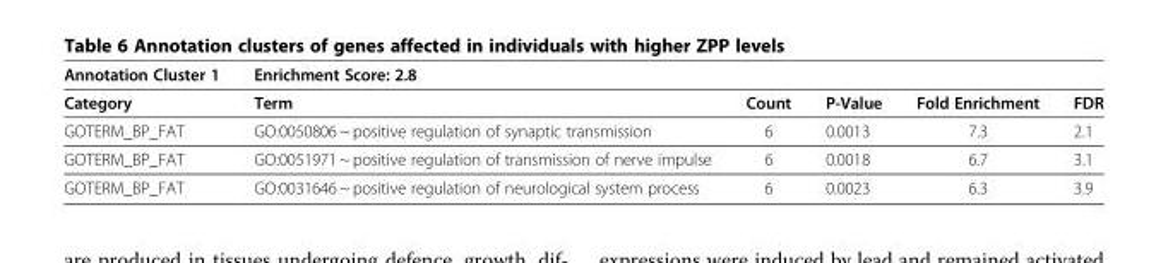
<table><thead><tr><td>Annotation Cluster 1</td><td>Enrichment Score: 2.8</td><td></td><td></td><td></td><td></td></tr></thead><tbody><tr><td>Category</td><td>Term</td><td>Count</td><td>P-Value</td><td>Fold Enrichment</td><td>FDR</td></tr><tr><td>GOTERM_BP_FAT</td><td>GO:0050806 ~ positive regulation of synaptic transmission</td><td>6</td><td>0.0013</td><td>7.3</td><td>2.1</td></tr><tr><td>GOTERM_BP_FAT</td><td>GO:0051971 ~ positive regulation of transmission of nerve impulse</td><td>6</td><td>0.0018</td><td>6.7</td><td>3.1</td></tr><tr><td>GOTERM_BP_FAT</td><td>GO:0031646 ~ positive regulation of neurological system process</td><td>6</td><td>0.0023</td><td>6.3</td><td>3.9</td></tr></tbody></table>